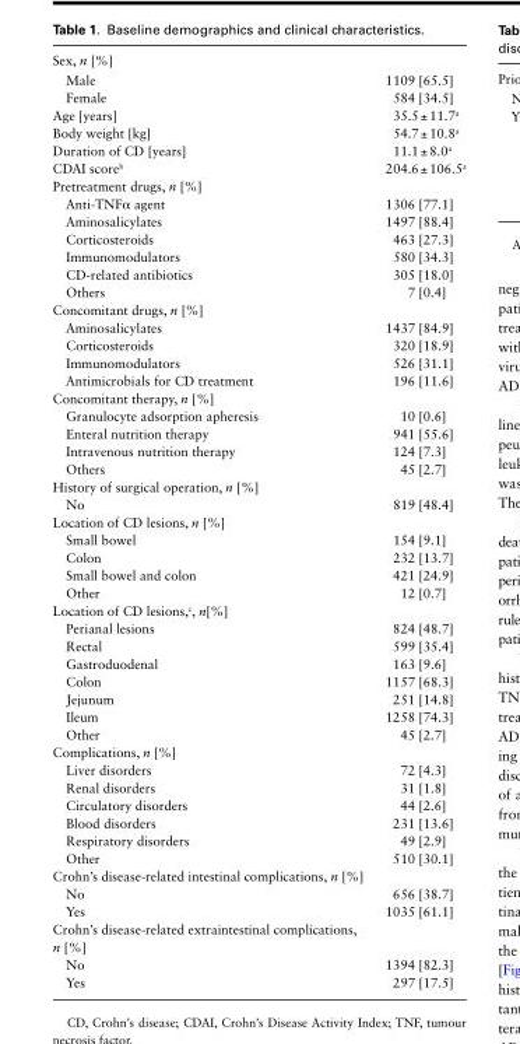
<table><tbody><tr><td colspan="2">Sex, n [%]</td></tr><tr><td>Male</td><td>1109 [65.5]</td></tr><tr><td>Female</td><td>584 [34.5]</td></tr><tr><td>Age [years]</td><td>35.5 ± 11.7<sup>a</sup></td></tr><tr><td>Body weight [kg]</td><td>54.7 ± 10.8<sup>a</sup></td></tr><tr><td>Duration of CD [years]</td><td>11.1 ± 8.0<sup>a</sup></td></tr><tr><td>CDAI score<sup>b</sup></td><td>204.6 ± 106.5<sup>a</sup></td></tr><tr><td colspan="2">Pretreatment drugs, n [%]</td></tr><tr><td>Anti-TNFα agent</td><td>1306 [77.1]</td></tr><tr><td>Aminosalicylates</td><td>1497 [88.4]</td></tr><tr><td>Corticosteroids</td><td>463 [27.3]</td></tr><tr><td>Immunomodulators</td><td>580 [34.3]</td></tr><tr><td>CD-related antibiotics</td><td>305 [18.0]</td></tr><tr><td>Others</td><td>7 [0.4]</td></tr><tr><td colspan="2">Concomitant drugs, n [%]</td></tr><tr><td>Aminosalicylates</td><td>1437 [84.9]</td></tr><tr><td>Corticosteroids</td><td>320 [18.9]</td></tr><tr><td>Immunomodulators</td><td>526 [31.1]</td></tr><tr><td>Antimicrobials for CD treatment</td><td>196 [11.6]</td></tr><tr><td colspan="2">Concomitant therapy, n [%]</td></tr><tr><td>Granulocyte adsorption apheresis</td><td>10 [0.6]</td></tr><tr><td>Enteral nutrition therapy</td><td>941 [55.6]</td></tr><tr><td>Intravenous nutrition therapy</td><td>124 [7.3]</td></tr><tr><td>Others</td><td>45 [2.7]</td></tr><tr><td colspan="2">History of surgical operation, n [%]</td></tr><tr><td>No</td><td>819 [48.4]</td></tr><tr><td colspan="2">Location of CD lesions, n [%]</td></tr><tr><td>Small bowel</td><td>154 [9.1]</td></tr><tr><td>Colon</td><td>232 [13.7]</td></tr><tr><td>Small bowel and colon</td><td>421 [24.9]</td></tr><tr><td>Other</td><td>12 [0.7]</td></tr><tr><td colspan="2">Location of CD lesions,<sup>c</sup>, n[%]</td></tr><tr><td>Perianal lesions</td><td>824 [48.7]</td></tr><tr><td>Rectal</td><td>599 [35.4]</td></tr><tr><td>Gastroduodenal</td><td>163 [9.6]</td></tr><tr><td>Colon</td><td>1157 [68.3]</td></tr><tr><td>Jejunum</td><td>251 [14.8]</td></tr><tr><td>Ileum</td><td>1258 [74.3]</td></tr><tr><td>Other</td><td>45 [2.7]</td></tr><tr><td colspan="2">Complications, n [%]</td></tr><tr><td>Liver disorders</td><td>72 [4.3]</td></tr><tr><td>Renal disorders</td><td>31 [1.8]</td></tr><tr><td>Circulatory disorders</td><td>44 [2.6]</td></tr><tr><td>Blood disorders</td><td>231 [13.6]</td></tr><tr><td>Respiratory disorders</td><td>49 [2.9]</td></tr><tr><td>Other</td><td>510 [30.1]</td></tr><tr><td colspan="2">Crohn’s disease-related intestinal complications, n [%]</td></tr><tr><td>No</td><td>656 [38.7]</td></tr><tr><td>Yes</td><td>1035 [61.1]</td></tr><tr><td colspan="2">Crohn’s disease-related extraintestinal complications, n [%]</td></tr><tr><td>No</td><td>1394 [82.3]</td></tr><tr><td>Yes</td><td>297 [17.5]</td></tr></tbody></table>